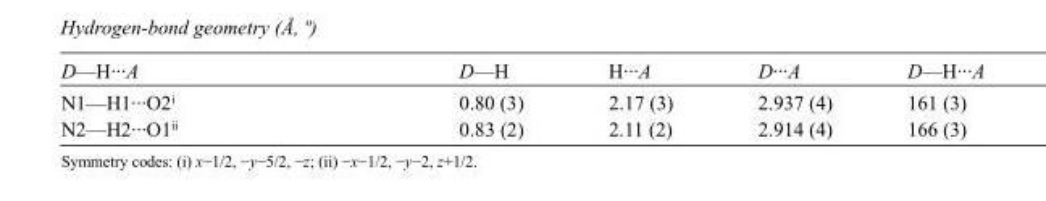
<table><tbody><tr><td>D—H···A</td><td>D—H</td><td>H···A</td><td>D···A</td><td>D—H···A</td></tr><tr><td>N1—H1···O2<sup>i</sup></td><td>0.80 (3)</td><td>2.17 (3)</td><td>2.937 (4)</td><td>161 (3)</td></tr><tr><td>N2—H2···O1<sup>ii</sup></td><td>0.83 (2)</td><td>2.11 (2)</td><td>2.914 (4)</td><td>166 (3)</td></tr></tbody></table>